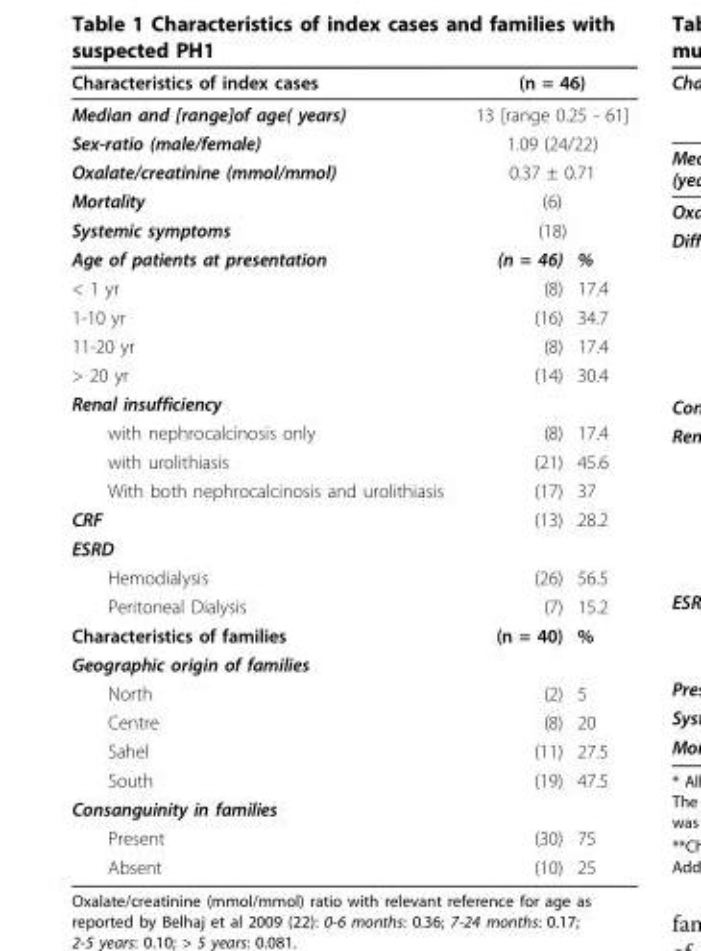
<table><thead><tr><td>Characteristics of index cases</td><td colspan="2">(n = 46)</td></tr></thead><tbody><tr><td>Median and [range]of age( years)</td><td colspan="2">13 [range 0.25 - 61]</td></tr><tr><td>Sex-ratio (male/female)</td><td colspan="2">1.09 (24/22)</td></tr><tr><td>Oxalate/creatinine (mmol/mmol)</td><td colspan="2">0.37 ± 0.71</td></tr><tr><td>Mortality</td><td colspan="2">(6)</td></tr><tr><td>Systemic symptoms</td><td colspan="2">(18)</td></tr><tr><td>Age of patients at presentation</td><td>(n = 46)</td><td>%</td></tr><tr><td>&lt; 1 yr</td><td>(8)</td><td>17.4</td></tr><tr><td>1-10 yr</td><td>(16)</td><td>34.7</td></tr><tr><td>11-20 yr</td><td>(8)</td><td>17.4</td></tr><tr><td>&gt; 20 yr</td><td>(14)</td><td>30.4</td></tr><tr><td colspan="3">Renal insufficiency</td></tr><tr><td>with nephrocalcinosis only</td><td>(8)</td><td>17.4</td></tr><tr><td>with urolithiasis</td><td>(21)</td><td>45.6</td></tr><tr><td>With both nephrocalcinosis and urolithiasis</td><td>(17)</td><td>37</td></tr><tr><td>CRF</td><td>(13)</td><td>28.2</td></tr><tr><td colspan="3">ESRD</td></tr><tr><td>Hemodialysis</td><td>(26)</td><td>56.5</td></tr><tr><td>Peritoneal Dialysis</td><td>(7)</td><td>15.2</td></tr><tr><td>Characteristics of families</td><td>(n = 40)</td><td>%</td></tr><tr><td colspan="3">Geographic origin of families</td></tr><tr><td>North</td><td>(2)</td><td>5</td></tr><tr><td>Centre</td><td>(8)</td><td>20</td></tr><tr><td>Sahel</td><td>(11)</td><td>27.5</td></tr><tr><td>South</td><td>(19)</td><td>47.5</td></tr><tr><td colspan="3">Consanguinity in families</td></tr><tr><td>Present</td><td>(30)</td><td>75</td></tr><tr><td>Absent</td><td>(10)</td><td>25</td></tr></tbody></table>